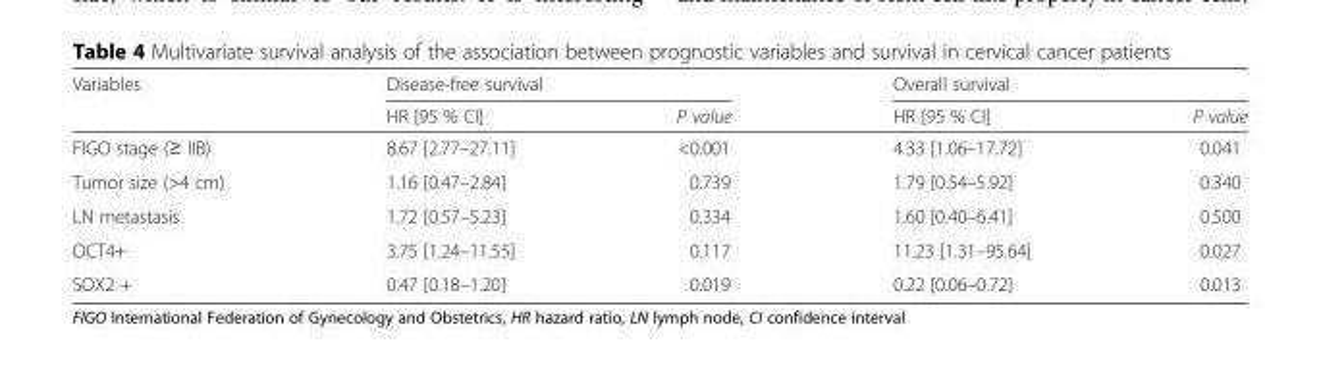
<table><thead><tr><td rowspan="2">Variables</td><td colspan="2">Disease-free survival</td><td colspan="2">Overall survival</td></tr><tr><td>HR [95 % CI]</td><td>P value</td><td>HR [95 % CI]</td><td>P value</td></tr></thead><tbody><tr><td>FIGO stage (≥ IIB)</td><td>8.67 [2.77–27.11]</td><td>&lt;0.001</td><td>4.33 [1.06–17.72]</td><td>0.041</td></tr><tr><td>Tumor size (&gt;4 cm)</td><td>1.16 [0.47–2.84]</td><td>0.739</td><td>1.79 [0.54–5.92]</td><td>0.340</td></tr><tr><td>LN metastasis</td><td>1.72 [0.57–5.23]</td><td>0.334</td><td>1.60 [0.40–6.41]</td><td>0.500</td></tr><tr><td>OCT4+</td><td>3.75 [1.24–11.55]</td><td>0.117</td><td>11.23 [1.31–95.64]</td><td>0.027</td></tr><tr><td>SOX2 +</td><td>0.47 [0.18–1.20]</td><td>0.019</td><td>0.22 [0.06–0.72]</td><td>0.013</td></tr></tbody></table>